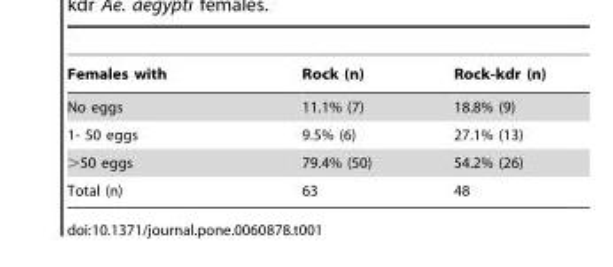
<table><thead><tr><td>Females with</td><td>Rock (n)</td><td>Rock-kdr (n)</td></tr></thead><tbody><tr><td>No eggs</td><td>11.1% (7)</td><td>18.8% (9)</td></tr><tr><td>1- 50 eggs</td><td>9.5% (6)</td><td>27.1% (13)</td></tr><tr><td>&gt;50 eggs</td><td>79.4% (50)</td><td>54.2% (26)</td></tr><tr><td>Total (n)</td><td>63</td><td>48</td></tr></tbody></table>